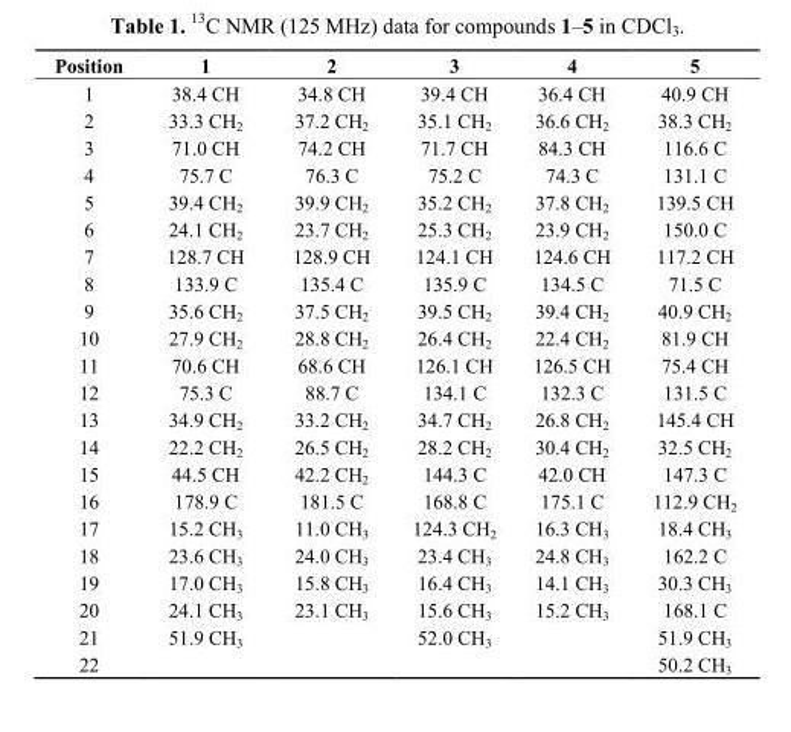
<table><thead><tr><td>Position</td><td>1</td><td>2</td><td>3</td><td>4</td><td>5</td></tr></thead><tbody><tr><td>1</td><td>38.4 CH</td><td>34.8 CH</td><td>39.4 CH</td><td>36.4 CH</td><td>40.9 CH</td></tr><tr><td>2</td><td>33.3 CH<sub>2</sub></td><td>37.2 CH<sub>2</sub></td><td>35.1 CH<sub>2</sub></td><td>36.6 CH<sub>2</sub></td><td>38.3 CH<sub>2</sub></td></tr><tr><td>3</td><td>71.0 CH</td><td>74.2 CH</td><td>71.7 CH</td><td>84.3 CH</td><td>116.6 C</td></tr><tr><td>4</td><td>75.7 C</td><td>76.3 C</td><td>75.2 C</td><td>74.3 C</td><td>131.1 C</td></tr><tr><td>5</td><td>39.4 CH<sub>2</sub></td><td>39.9 CH<sub>2</sub></td><td>35.2 CH<sub>2</sub></td><td>37.8 CH<sub>2</sub></td><td>139.5 CH</td></tr><tr><td>6</td><td>24.1 CH<sub>2</sub></td><td>23.7 CH<sub>2</sub></td><td>25.3 CH<sub>2</sub></td><td>23.9 CH<sub>2</sub></td><td>150.0 C</td></tr><tr><td>7</td><td>128.7 CH</td><td>128.9 CH</td><td>124.1 CH</td><td>124.6 CH</td><td>117.2 CH</td></tr><tr><td>8</td><td>133.9 C</td><td>135.4 C</td><td>135.9 C</td><td>134.5 C</td><td>71.5 C</td></tr><tr><td>9</td><td>35.6 CH<sub>2</sub></td><td>37.5 CH<sub>2</sub></td><td>39.5 CH<sub>2</sub></td><td>39.4 CH<sub>2</sub></td><td>40.9 CH<sub>2</sub></td></tr><tr><td>10</td><td>27.9 CH<sub>2</sub></td><td>28.8 CH<sub>2</sub></td><td>26.4 CH<sub>2</sub></td><td>22.4 CH<sub>2</sub></td><td>81.9 CH</td></tr><tr><td>11</td><td>70.6 CH</td><td>68.6 CH</td><td>126.1 CH</td><td>126.5 CH</td><td>75.4 CH</td></tr><tr><td>12</td><td>75.3 C</td><td>88.7 C</td><td>134.1 C</td><td>132.3 C</td><td>131.5 C</td></tr><tr><td>13</td><td>34.9 CH<sub>2</sub></td><td>33.2 CH<sub>2</sub></td><td>34.7 CH<sub>2</sub></td><td>26.8 CH<sub>2</sub></td><td>145.4 CH</td></tr><tr><td>14</td><td>22.2 CH<sub>2</sub></td><td>26.5 CH<sub>2</sub></td><td>28.2 CH<sub>2</sub></td><td>30.4 CH<sub>2</sub></td><td>32.5 CH<sub>2</sub></td></tr><tr><td>15</td><td>44.5 CH</td><td>42.2 CH<sub>2</sub></td><td>144.3 C</td><td>42.0 CH</td><td>147.3 C</td></tr><tr><td>16</td><td>178.9 C</td><td>181.5 C</td><td>168.8 C</td><td>175.1 C</td><td>112.9 CH<sub>2</sub></td></tr><tr><td>17</td><td>15.2 CH<sub>3</sub></td><td>11.0 CH<sub>3</sub></td><td>124.3 CH<sub>2</sub></td><td>16.3 CH<sub>3</sub></td><td>18.4 CH<sub>3</sub></td></tr><tr><td>18</td><td>23.6 CH<sub>3</sub></td><td>24.0 CH<sub>3</sub></td><td>23.4 CH<sub>3</sub></td><td>24.8 CH<sub>3</sub></td><td>162.2 C</td></tr><tr><td>19</td><td>17.0 CH<sub>3</sub></td><td>15.8 CH<sub>3</sub></td><td>16.4 CH<sub>3</sub></td><td>14.1 CH<sub>3</sub></td><td>30.3 CH<sub>3</sub></td></tr><tr><td>20</td><td>24.1 CH<sub>3</sub></td><td>23.1 CH<sub>3</sub></td><td>15.6 CH<sub>3</sub></td><td>15.2 CH<sub>3</sub></td><td>168.1 C</td></tr><tr><td>21</td><td>51.9 CH<sub>3</sub></td><td></td><td>52.0 CH<sub>3</sub></td><td></td><td>51.9 CH<sub>3</sub></td></tr><tr><td>22</td><td></td><td></td><td></td><td></td><td>50.2 CH<sub>3</sub></td></tr></tbody></table>